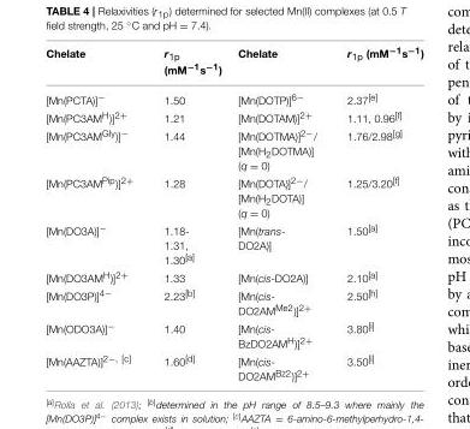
<table><thead><tr><td>Chelate</td><td>r<sub>1p</sub> (mM<sup>−1</sup>s<sup>−1</sup>)</td><td>Chelate</td><td>r<sub>1p</sub> (mM<sup>−1</sup>s<sup>−1</sup>)</td></tr></thead><tbody><tr><td>[Mn(PCTA)]<sup>−</sup></td><td>1.50</td><td>[Mn(DOTP)]<sup>6−</sup></td><td>2.37<sup>[e]</sup></td></tr><tr><td>[Mn(PC3AM<sup>H</sup>)]<sup>2+</sup></td><td>1.21</td><td>[Mn(DOTAM)]<sup>2+</sup></td><td>1.11, 0.96<sup>[f]</sup></td></tr><tr><td>[Mn(PC3AM<sup>Gly</sup>)]<sup>−</sup></td><td>1.44</td><td>[Mn(DOTMA)]<sup>2−</sup>/ [Mn(H<sub>2</sub>DOTMA)] (q = 0)</td><td>1.76/2.98<sup>[g]</sup></td></tr><tr><td>[Mn(PC3AM<sup>Pip</sup>)]<sup>2+</sup></td><td>1.28</td><td>[Mn(DOTA)]<sup>2−</sup>/ [Mn(H<sub>2</sub>DOTA)] (q = 0)</td><td>1.25/3.20<sup>[f]</sup></td></tr><tr><td>[Mn(DO3A)]<sup>−</sup></td><td>1.18- 1.31, 1.30<sup>[a]</sup></td><td>[Mn(trans- DO2A)]</td><td>1.50<sup>[a]</sup></td></tr><tr><td>[Mn(DO3AM<sup>H</sup>)]<sup>2+</sup></td><td>1.33</td><td>[Mn(cis-DO2A)]</td><td>2.10<sup>[a]</sup></td></tr><tr><td>[Mn(DO3P)]<sup>4−</sup></td><td>2.23<sup>[b]</sup></td><td>[Mn(cis- DO2AM<sup>Me2</sup>)]<sup>2+</sup></td><td>2.50<sup>[h]</sup></td></tr><tr><td>[Mn(ODO3A)]<sup>−</sup></td><td>1.40</td><td>[Mn(cis- BzDO2AM<sup>H</sup>)]<sup>2+</sup></td><td>3.80<sup>[i]</sup></td></tr><tr><td>[Mn(AAZTA)]<sup>2−</sup>, <sup>[c]</sup></td><td>1.60<sup>[d]</sup></td><td>[Mn(cis- DO2AM<sup>Bz2</sup>)]<sup>2+</sup></td><td>3.50<sup>[i]</sup></td></tr></tbody></table>